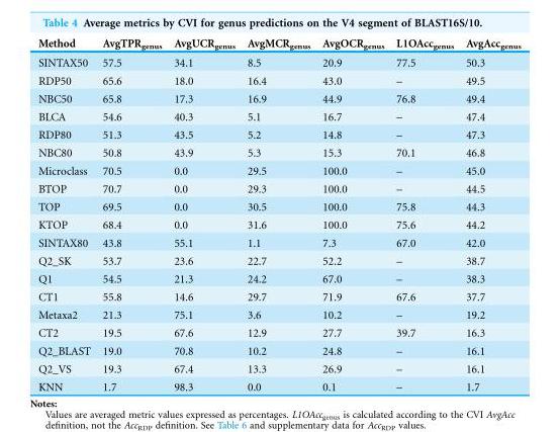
<table><thead><tr><td>Method</td><td>AvgTPR<sub>genus</sub></td><td>AvgUCR<sub>genus</sub></td><td>AvgMCR<sub>genus</sub></td><td>AvgOCR<sub>genus</sub></td><td>L1OAcc<sub>genus</sub></td><td>AvgAcc<sub>genus</sub></td></tr></thead><tbody><tr><td>SINTAX50</td><td>57.5</td><td>34.1</td><td>8.5</td><td>20.9</td><td>77.5</td><td>50.3</td></tr><tr><td>RDP50</td><td>65.6</td><td>18.0</td><td>16.4</td><td>43.0</td><td>–</td><td>49.5</td></tr><tr><td>NBC50</td><td>65.8</td><td>17.3</td><td>16.9</td><td>44.9</td><td>76.8</td><td>49.4</td></tr><tr><td>BLCA</td><td>54.6</td><td>40.3</td><td>5.1</td><td>16.7</td><td>–</td><td>47.4</td></tr><tr><td>RDP80</td><td>51.3</td><td>43.5</td><td>5.2</td><td>14.8</td><td>–</td><td>47.3</td></tr><tr><td>NBC80</td><td>50.8</td><td>43.9</td><td>5.3</td><td>15.3</td><td>70.1</td><td>46.8</td></tr><tr><td>Microclass</td><td>70.5</td><td>0.0</td><td>29.5</td><td>100.0</td><td>–</td><td>45.0</td></tr><tr><td>BTOP</td><td>70.7</td><td>0.0</td><td>29.3</td><td>100.0</td><td>–</td><td>44.5</td></tr><tr><td>TOP</td><td>69.5</td><td>0.0</td><td>30.5</td><td>100.0</td><td>75.8</td><td>44.3</td></tr><tr><td>KTOP</td><td>68.4</td><td>0.0</td><td>31.6</td><td>100.0</td><td>75.6</td><td>44.2</td></tr><tr><td>SINTAX80</td><td>43.8</td><td>55.1</td><td>1.1</td><td>7.3</td><td>67.0</td><td>42.0</td></tr><tr><td>Q2_SK</td><td>53.7</td><td>23.6</td><td>22.7</td><td>52.2</td><td>–</td><td>38.7</td></tr><tr><td>Q1</td><td>54.5</td><td>21.3</td><td>24.2</td><td>67.0</td><td>–</td><td>38.3</td></tr><tr><td>CT1</td><td>55.8</td><td>14.6</td><td>29.7</td><td>71.9</td><td>67.6</td><td>37.7</td></tr><tr><td>Metaxa2</td><td>21.3</td><td>75.1</td><td>3.6</td><td>10.2</td><td>–</td><td>19.2</td></tr><tr><td>CT2</td><td>19.5</td><td>67.6</td><td>12.9</td><td>27.7</td><td>39.7</td><td>16.3</td></tr><tr><td>Q2_BLAST</td><td>19.0</td><td>70.8</td><td>10.2</td><td>24.8</td><td>–</td><td>16.1</td></tr><tr><td>Q2_VS</td><td>19.3</td><td>67.4</td><td>13.3</td><td>26.9</td><td>–</td><td>16.1</td></tr><tr><td>KNN</td><td>1.7</td><td>98.3</td><td>0.0</td><td>0.1</td><td>–</td><td>1.7</td></tr></tbody></table>